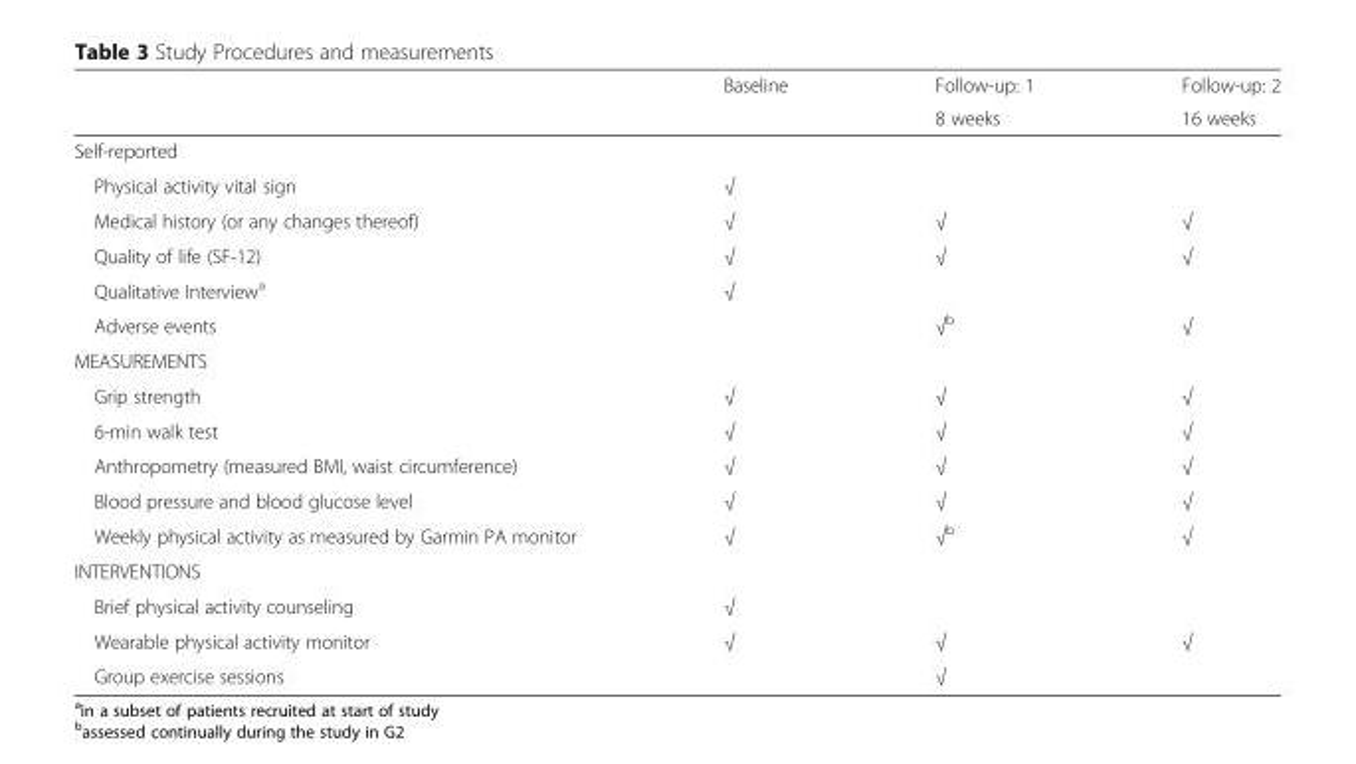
<table><thead><tr><td rowspan="2"></td><td rowspan="2">Baseline</td><td rowspan="2">Follow-up: 1 8 weeks</td><td rowspan="2">Follow-up: 2 16 weeks</td></tr><tr></tr></thead><tbody><tr><td colspan="4">Self-reported</td></tr><tr><td>Physical activity vital sign</td><td>√</td><td></td><td></td></tr><tr><td>Medical history (or any changes thereof)</td><td>√</td><td>√</td><td>√</td></tr><tr><td>Quality of life (SF-12)</td><td>√</td><td>√</td><td>√</td></tr><tr><td>Qualitative Interview<sup>a</sup></td><td>√</td><td></td><td></td></tr><tr><td>Adverse events</td><td></td><td>√<sup>b</sup></td><td>√</td></tr><tr><td colspan="4">MEASUREMENTS</td></tr><tr><td>Grip strength</td><td>√</td><td>√</td><td>√</td></tr><tr><td>6-min walk test</td><td>√</td><td>√</td><td>√</td></tr><tr><td>Anthropometry (measured BMI, waist circumference)</td><td>√</td><td>√</td><td>√</td></tr><tr><td>Blood pressure and blood glucose level</td><td>√</td><td>√</td><td>√</td></tr><tr><td>Weekly physical activity as measured by Garmin PA monitor</td><td>√</td><td>√<sup>b</sup></td><td>√</td></tr><tr><td colspan="4">INTERVENTIONS</td></tr><tr><td>Brief physical activity counseling</td><td>√</td><td></td><td></td></tr><tr><td>Wearable physical activity monitor</td><td>√</td><td>√</td><td>√</td></tr><tr><td>Group exercise sessions</td><td></td><td>√</td><td></td></tr></tbody></table>